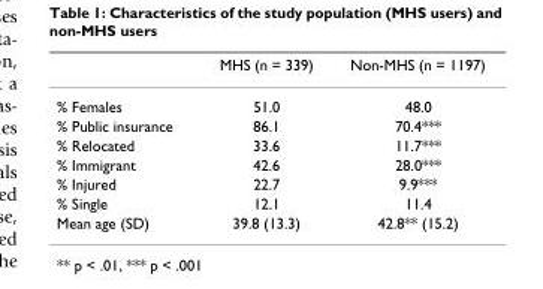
<table><thead><tr><td></td><td>MHS (n = 339)</td><td>Non-MHS (n = 1197)</td></tr></thead><tbody><tr><td>% Females</td><td>51.0</td><td>48.0</td></tr><tr><td>% Public insurance</td><td>86.1</td><td>70.4***</td></tr><tr><td>% Relocated</td><td>33.6</td><td>11.7***</td></tr><tr><td>% Immigrant</td><td>42.6</td><td>28.0***</td></tr><tr><td>% Injured</td><td>22.7</td><td>9.9***</td></tr><tr><td>% Single</td><td>12.1</td><td>11.4</td></tr><tr><td>Mean age (SD)</td><td>39.8 (13.3)</td><td>42.8** (15.2)</td></tr></tbody></table>